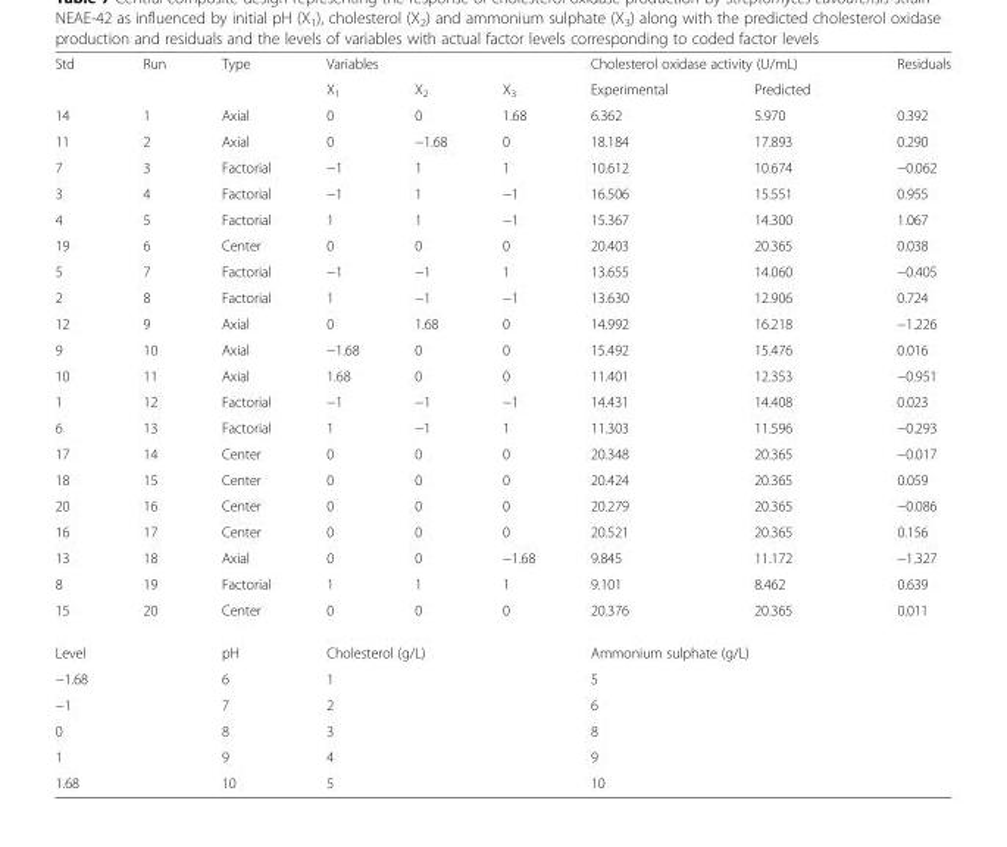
<table><tbody><tr><td rowspan="2">Std</td><td>Run</td><td>Type</td><td colspan="3">Variables</td><td colspan="2">Cholesterol oxidase activity (U/mL)</td><td rowspan="2">Residuals</td></tr><tr><td></td><td></td><td>X<sub>1</sub></td><td>X<sub>2</sub></td><td>X<sub>3</sub></td><td>Experimental</td><td>Predicted</td></tr><tr><td>14</td><td>1</td><td>Axial</td><td>0</td><td>0</td><td>1.68</td><td>6.362</td><td>5.970</td><td>0.392</td></tr><tr><td>11</td><td>2</td><td>Axial</td><td>0</td><td>−1.68</td><td>0</td><td>18.184</td><td>17.893</td><td>0.290</td></tr><tr><td>7</td><td>3</td><td>Factorial</td><td>−1</td><td>1</td><td>1</td><td>10.612</td><td>10.674</td><td>−0.062</td></tr><tr><td>3</td><td>4</td><td>Factorial</td><td>−1</td><td>1</td><td>−1</td><td>16.506</td><td>15.551</td><td>0.955</td></tr><tr><td>4</td><td>5</td><td>Factorial</td><td>1</td><td>1</td><td>−1</td><td>15.367</td><td>14.300</td><td>1.067</td></tr><tr><td>19</td><td>6</td><td>Center</td><td>0</td><td>0</td><td>0</td><td>20.403</td><td>20.365</td><td>0.038</td></tr><tr><td>5</td><td>7</td><td>Factorial</td><td>−1</td><td>−1</td><td>1</td><td>13.655</td><td>14.060</td><td>−0.405</td></tr><tr><td>2</td><td>8</td><td>Factorial</td><td>1</td><td>−1</td><td>−1</td><td>13.630</td><td>12.906</td><td>0.724</td></tr><tr><td>12</td><td>9</td><td>Axial</td><td>0</td><td>1.68</td><td>0</td><td>14.992</td><td>16.218</td><td>−1.226</td></tr><tr><td>9</td><td>10</td><td>Axial</td><td>−1.68</td><td>0</td><td>0</td><td>15.492</td><td>15.476</td><td>0.016</td></tr><tr><td>10</td><td>11</td><td>Axial</td><td>1.68</td><td>0</td><td>0</td><td>11.401</td><td>12.353</td><td>−0.951</td></tr><tr><td>1</td><td>12</td><td>Factorial</td><td>−1</td><td>−1</td><td>−1</td><td>14.431</td><td>14.408</td><td>0.023</td></tr><tr><td>6</td><td>13</td><td>Factorial</td><td>1</td><td>−1</td><td>1</td><td>11.303</td><td>11.596</td><td>−0.293</td></tr><tr><td>17</td><td>14</td><td>Center</td><td>0</td><td>0</td><td>0</td><td>20.348</td><td>20.365</td><td>−0.017</td></tr><tr><td>18</td><td>15</td><td>Center</td><td>0</td><td>0</td><td>0</td><td>20.424</td><td>20.365</td><td>0.059</td></tr><tr><td>20</td><td>16</td><td>Center</td><td>0</td><td>0</td><td>0</td><td>20.279</td><td>20.365</td><td>−0.086</td></tr><tr><td>16</td><td>17</td><td>Center</td><td>0</td><td>0</td><td>0</td><td>20.521</td><td>20.365</td><td>0.156</td></tr><tr><td>13</td><td>18</td><td>Axial</td><td>0</td><td>0</td><td>−1.68</td><td>9.845</td><td>11.172</td><td>−1.327</td></tr><tr><td>8</td><td>19</td><td>Factorial</td><td>1</td><td>1</td><td>1</td><td>9.101</td><td>8.462</td><td>0.639</td></tr><tr><td>15</td><td>20</td><td>Center</td><td>0</td><td>0</td><td>0</td><td>20.376</td><td>20.365</td><td>0.011</td></tr><tr><td colspan="2">Level</td><td>pH</td><td colspan="3">Cholesterol (g/L)</td><td colspan="3">Ammonium sulphate (g/L)</td></tr><tr><td>−1.68</td><td></td><td>6</td><td colspan="3">1</td><td colspan="3">5</td></tr><tr><td>−1</td><td></td><td>7</td><td colspan="3">2</td><td colspan="3">6</td></tr><tr><td>0</td><td></td><td>8</td><td colspan="3">3</td><td colspan="3">8</td></tr><tr><td>1</td><td></td><td>9</td><td colspan="3">4</td><td colspan="3">9</td></tr><tr><td>1.68</td><td></td><td>10</td><td colspan="3">5</td><td colspan="3">10</td></tr></tbody></table>